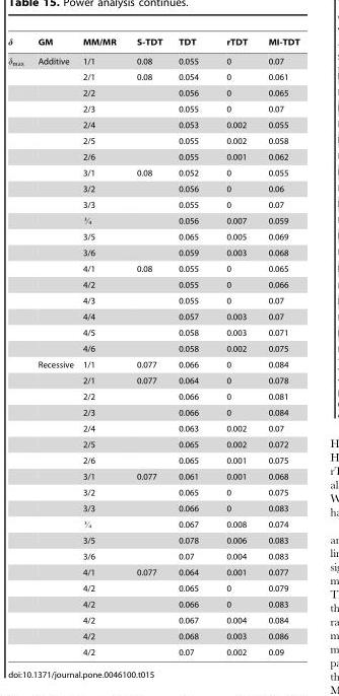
<table><thead><tr><td>GM</td><td>MM/MR</td><td>S-TDT</td><td>TDT</td><td>rTDT</td><td>MI-TDT</td></tr></thead><tbody><tr><td rowspan="19">Additive</td><td>1/1</td><td>0.08</td><td>0.055</td><td>0</td><td>0.07</td></tr><tr><td>2/1</td><td>0.08</td><td>0.054</td><td>0</td><td>0.061</td></tr><tr><td>2/2</td><td></td><td>0.056</td><td>0</td><td>0.065</td></tr><tr><td>2/3</td><td></td><td>0.055</td><td>0</td><td>0.07</td></tr><tr><td>2/4</td><td></td><td>0.053</td><td>0.002</td><td>0.055</td></tr><tr><td>2/5</td><td></td><td>0.055</td><td>0.002</td><td>0.058</td></tr><tr><td>2/6</td><td></td><td>0.055</td><td>0.001</td><td>0.062</td></tr><tr><td>3/1</td><td>0.08</td><td>0.052</td><td>0</td><td>0.055</td></tr><tr><td>3/2</td><td></td><td>0.056</td><td>0</td><td>0.06</td></tr><tr><td>3/3</td><td></td><td>0.055</td><td>0</td><td>0.07</td></tr><tr><td>L</td><td></td><td>0.056</td><td>0.007</td><td>0.059</td></tr><tr><td>3/5</td><td></td><td>0.065</td><td>0.005</td><td>0.069</td></tr><tr><td>3/6</td><td></td><td>0.059</td><td>0.003</td><td>0.068</td></tr><tr><td>4/1</td><td>0.08</td><td>0.055</td><td>0</td><td>0.065</td></tr><tr><td>4/2</td><td></td><td>0.055</td><td>0</td><td>0.066</td></tr><tr><td>4/3</td><td></td><td>0.055</td><td>0</td><td>0.07</td></tr><tr><td>4/4</td><td></td><td>0.057</td><td>0.003</td><td>0.07</td></tr><tr><td>4/5</td><td></td><td>0.058</td><td>0.003</td><td>0.071</td></tr><tr><td>4/6</td><td></td><td>0.058</td><td>0.002</td><td>0.075</td></tr><tr><td rowspan="19">Recessive</td><td>1/1</td><td>0.077</td><td>0.066</td><td>0</td><td>0.084</td></tr><tr><td>2/1</td><td>0.077</td><td>0.064</td><td>0</td><td>0.078</td></tr><tr><td>2/2</td><td></td><td>0.066</td><td>0</td><td>0.081</td></tr><tr><td>2/3</td><td></td><td>0.066</td><td>0</td><td>0.084</td></tr><tr><td>2/4</td><td></td><td>0.063</td><td>0.002</td><td>0.07</td></tr><tr><td>2/5</td><td></td><td>0.065</td><td>0.002</td><td>0.072</td></tr><tr><td>2/6</td><td></td><td>0.065</td><td>0.001</td><td>0.075</td></tr><tr><td>3/1</td><td>0.077</td><td>0.061</td><td>0.001</td><td>0.068</td></tr><tr><td>3/2</td><td></td><td>0.065</td><td>0</td><td>0.075</td></tr><tr><td>3/3</td><td></td><td>0.066</td><td>0</td><td>0.083</td></tr><tr><td>L</td><td></td><td>0.067</td><td>0.008</td><td>0.074</td></tr><tr><td>3/5</td><td></td><td>0.078</td><td>0.006</td><td>0.083</td></tr><tr><td>3/6</td><td></td><td>0.07</td><td>0.004</td><td>0.083</td></tr><tr><td>4/1</td><td>0.077</td><td>0.064</td><td>0.001</td><td>0.077</td></tr><tr><td>4/2</td><td></td><td>0.065</td><td>0</td><td>0.079</td></tr><tr><td>4/2</td><td></td><td>0.066</td><td>0</td><td>0.083</td></tr><tr><td>4/2</td><td></td><td>0.067</td><td>0.004</td><td>0.084</td></tr><tr><td>4/2</td><td></td><td>0.068</td><td>0.003</td><td>0.086</td></tr><tr><td>4/2</td><td></td><td>0.07</td><td>0.002</td><td>0.09</td></tr></tbody></table>